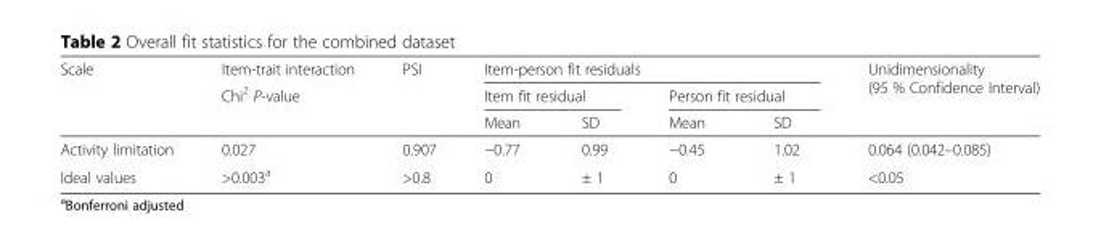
<table><thead><tr><td rowspan="3">Scale</td><td rowspan="3">Item-trait interaction Chi<sup>2</sup> P-value</td><td rowspan="3">PSI</td><td colspan="4">Item-person fit residuals</td><td rowspan="3">Unidimensionality (95 % Confidence Interval)</td></tr><tr><td colspan="2">Item fit residual</td><td colspan="2">Person fit residual</td></tr><tr><td>Mean</td><td>SD</td><td>Mean</td><td>SD</td></tr></thead><tbody><tr><td>Activity limitation</td><td>0.027</td><td>0.907</td><td>−0.77</td><td>0.99</td><td>−0.45</td><td>1.02</td><td>0.064 (0.042–0.085)</td></tr><tr><td>Ideal values</td><td>&gt;0.003<sup>a</sup></td><td>&gt;0.8</td><td>0</td><td>± 1</td><td>0</td><td>± 1</td><td>&lt;0.05</td></tr></tbody></table>